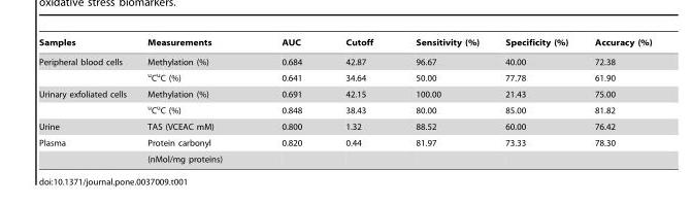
<table><thead><tr><td>Samples</td><td>Measurements</td><td>AUC</td><td>Cutoff</td><td>Sensitivity (%)</td><td>Specificity (%)</td><td>Accuracy (%)</td></tr></thead><tbody><tr><td rowspan="2">Peripheral blood cells</td><td>Methylation (%)</td><td>0.684</td><td>42.87</td><td>96.67</td><td>40.00</td><td>72.38</td></tr><tr><td><sup>u</sup>C<sup>u</sup>C (%)</td><td>0.641</td><td>34.64</td><td>50.00</td><td>77.78</td><td>61.90</td></tr><tr><td rowspan="2">Urinary exfoliated cells</td><td>Methylation (%)</td><td>0.691</td><td>42.15</td><td>100.00</td><td>21.43</td><td>75.00</td></tr><tr><td><sup>u</sup>C<sup>u</sup>C (%)</td><td>0.848</td><td>38.43</td><td>80.00</td><td>85.00</td><td>81.82</td></tr><tr><td>Urine</td><td>TAS (VCEAC mM)</td><td>0.800</td><td>1.32</td><td>88.52</td><td>60.00</td><td>76.42</td></tr><tr><td rowspan="2">Plasma</td><td>Protein carbonyl</td><td>0.820</td><td>0.44</td><td>81.97</td><td>73.33</td><td>78.30</td></tr><tr><td>(nMol/mg proteins)</td><td></td><td></td><td></td><td></td><td></td></tr></tbody></table>